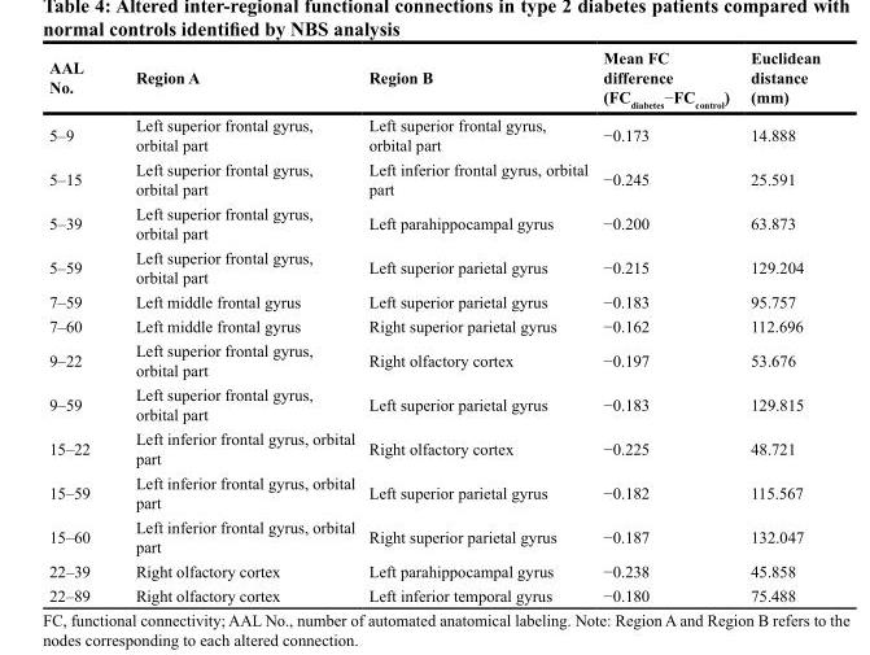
<table><thead><tr><td>AAL No.</td><td>Region A</td><td>Region B</td><td>Mean FC difference (FC<sub>diabetes</sub>−FC<sub>control</sub>)</td><td>Euclidean distance (mm)</td></tr></thead><tbody><tr><td>5–9</td><td>Left superior frontal gyrus, orbital part</td><td>Left superior frontal gyrus, orbital part</td><td>−0.173</td><td>14.888</td></tr><tr><td>5–15</td><td>Left superior frontal gyrus, orbital part</td><td>Left inferior frontal gyrus, orbital part</td><td>−0.245</td><td>25.591</td></tr><tr><td>5–39</td><td>Left superior frontal gyrus, orbital part</td><td>Left parahippocampal gyrus</td><td>−0.200</td><td>63.873</td></tr><tr><td>5–59</td><td>Left superior frontal gyrus, orbital part</td><td>Left superior parietal gyrus</td><td>−0.215</td><td>129.204</td></tr><tr><td>7–59</td><td>Left middle frontal gyrus</td><td>Left superior parietal gyrus</td><td>−0.183</td><td>95.757</td></tr><tr><td>7–60</td><td>Left middle frontal gyrus</td><td>Right superior parietal gyrus</td><td>−0.162</td><td>112.696</td></tr><tr><td>9–22</td><td>Left superior frontal gyrus, orbital part</td><td>Right olfactory cortex</td><td>−0.197</td><td>53.676</td></tr><tr><td>9–59</td><td>Left superior frontal gyrus, orbital part</td><td>Left superior parietal gyrus</td><td>−0.183</td><td>129.815</td></tr><tr><td>15–22</td><td>Left inferior frontal gyrus, orbital part</td><td>Right olfactory cortex</td><td>−0.225</td><td>48.721</td></tr><tr><td>15–59</td><td>Left inferior frontal gyrus, orbital part</td><td>Left superior parietal gyrus</td><td>−0.182</td><td>115.567</td></tr><tr><td>15–60</td><td>Left inferior frontal gyrus, orbital part</td><td>Right superior parietal gyrus</td><td>−0.187</td><td>132.047</td></tr><tr><td>22–39</td><td>Right olfactory cortex</td><td>Left parahippocampal gyrus</td><td>−0.238</td><td>45.858</td></tr><tr><td>22–89</td><td>Right olfactory cortex</td><td>Left inferior temporal gyrus</td><td>−0.180</td><td>75.488</td></tr></tbody></table>